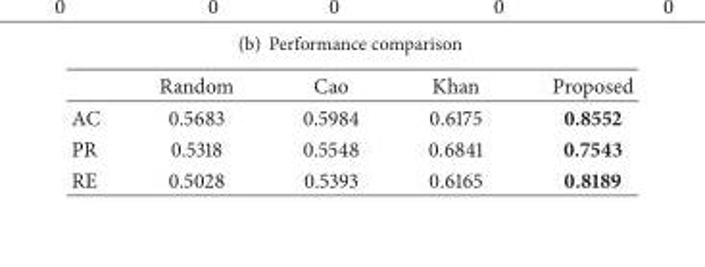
<table><thead><tr><td></td><td>Random</td><td>Cao</td><td>Khan</td><td>Proposed</td></tr></thead><tbody><tr><td>AC</td><td>0.5683</td><td>0.5984</td><td>0.6175</td><td>0.8552</td></tr><tr><td>PR</td><td>0.5318</td><td>0.5548</td><td>0.6841</td><td>0.7543</td></tr><tr><td>RE</td><td>0.5028</td><td>0.5393</td><td>0.6165</td><td>0.8189</td></tr></tbody></table>